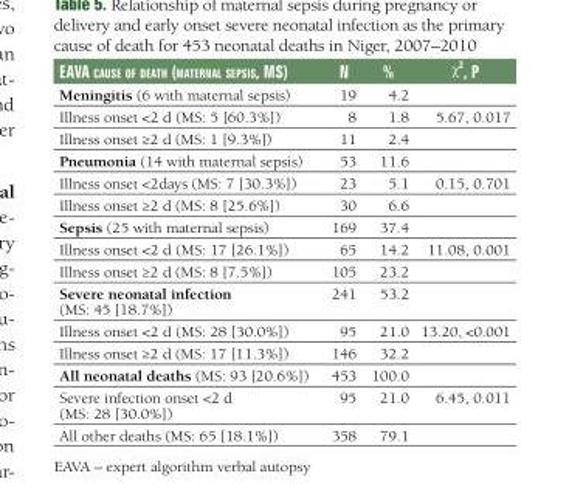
<table><thead><tr><td>eAVA cAuSe of deAth (mAterNAl SepSiS, mS)</td><td>N</td><td>%</td><td>χ<sup>2</sup>, p</td></tr></thead><tbody><tr><td>Meningitis (6 with maternal sepsis)</td><td>19</td><td>4.2</td><td></td></tr><tr><td>Illness onset &lt;2 d (MS: 5 [60.3%])</td><td>8</td><td>1.8</td><td>5.67, 0.017</td></tr><tr><td>Illness onset ≥2 d (MS: 1 [9.3%])</td><td>11</td><td>2.4</td><td></td></tr><tr><td>Pneumonia (14 with maternal sepsis)</td><td>53</td><td>11.6</td><td></td></tr><tr><td>Illness onset &lt;2days (MS: 7 [30.3%])</td><td>23</td><td>5.1</td><td>0.15, 0.701</td></tr><tr><td>Illness onset ≥2 d (MS: 8 [25.6%])</td><td>30</td><td>6.6</td><td></td></tr><tr><td>Sepsis (25 with maternal sepsis)</td><td>169</td><td>37.4</td><td></td></tr><tr><td>Illness onset &lt;2 d (MS: 17 [26.1%])</td><td>65</td><td>14.2</td><td>11.08, 0.001</td></tr><tr><td>Illness onset ≥2 d (MS: 8 [7.5%])</td><td>105</td><td>23.2</td><td></td></tr><tr><td>Severe neonatal infection (MS: 45 [18.7%])</td><td>241</td><td>53.2</td><td></td></tr><tr><td>Illness onset &lt;2 d (MS: 28 [30.0%])</td><td>95</td><td>21.0</td><td>13.20, &lt;0.001</td></tr><tr><td>Illness onset ≥2 d (MS: 17 [11.3%])</td><td>146</td><td>32.2</td><td></td></tr><tr><td>All neonatal deaths (MS: 93 [20.6%])</td><td>453</td><td>100.0</td><td></td></tr><tr><td>Severe infection onset &lt;2 d (MS: 28 [30.0%])</td><td>95</td><td>21.0</td><td>6.45, 0.011</td></tr><tr><td>All other deaths (MS: 65 [18.1%])</td><td>358</td><td>79.1</td><td></td></tr></tbody></table>